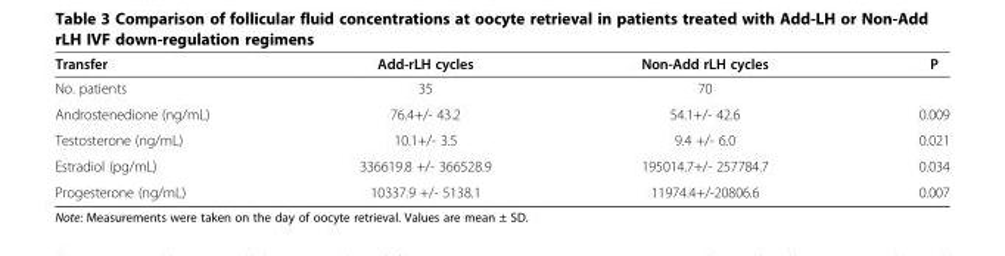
<table><thead><tr><td>Transfer</td><td>Add-rLH cycles</td><td>Non-Add rLH cycles</td><td>P</td></tr></thead><tbody><tr><td>No. patients</td><td>35</td><td>70</td><td></td></tr><tr><td>Androstenedione (ng/mL)</td><td>76.4+/- 43.2</td><td>54.1+/- 42.6</td><td>0.009</td></tr><tr><td>Testosterone (ng/mL)</td><td>10.1+/- 3.5</td><td>9.4 +/- 6.0</td><td>0.021</td></tr><tr><td>Estradiol (pg/mL)</td><td>336619.8 +/- 366528.9</td><td>195014.7+/- 257784.7</td><td>0.034</td></tr><tr><td>Progesterone (ng/mL)</td><td>10337.9 +/- 5138.1</td><td>11974.4+/-20806.6</td><td>0.007</td></tr></tbody></table>